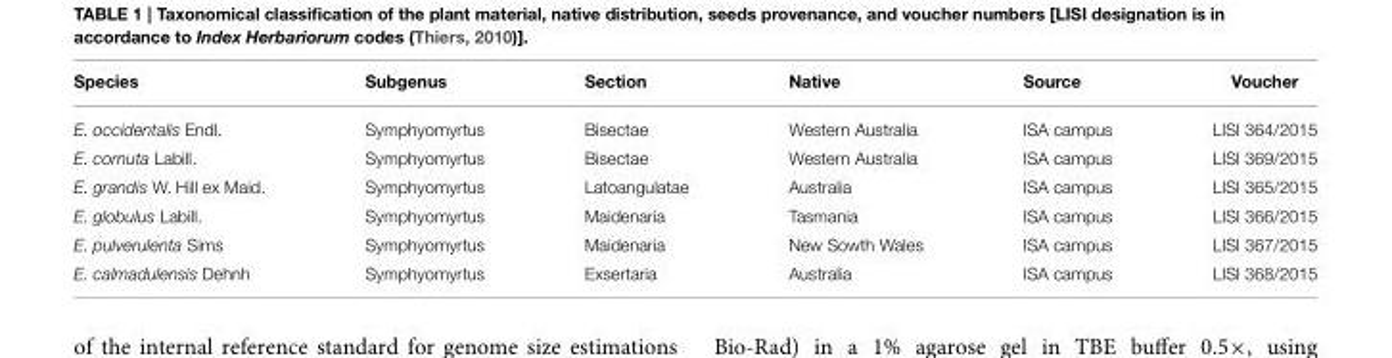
<table><thead><tr><td>Species</td><td>Subgenus</td><td>Section</td><td>Native</td><td>Source</td><td>Voucher</td></tr></thead><tbody><tr><td>E. occidentalis Endl.</td><td>Symphyomyrtus</td><td>Bisectae</td><td>Western Australia</td><td>ISA campus</td><td>LISI 364/2015</td></tr><tr><td>E. cornuta Labill.</td><td>Symphyomyrtus</td><td>Bisectae</td><td>Western Australia</td><td>ISA campus</td><td>LISI 369/2015</td></tr><tr><td>E. grandis W. Hill ex Maid.</td><td>Symphyomyrtus</td><td>Latoangulatae</td><td>Australia</td><td>ISA campus</td><td>LISI 365/2015</td></tr><tr><td>E. globulus Labill.</td><td>Symphyomyrtus</td><td>Maidenaria</td><td>Tasmania</td><td>ISA campus</td><td>LISI 366/2015</td></tr><tr><td>E. pulverulenta Sims</td><td>Symphyomyrtus</td><td>Maidenaria</td><td>New Sowth Wales</td><td>ISA campus</td><td>LISI 367/2015</td></tr><tr><td>E. calmadulensis Dehnh</td><td>Symphyomyrtus</td><td>Exsertaria</td><td>Australia</td><td>ISA campus</td><td>LISI 368/2015</td></tr></tbody></table>